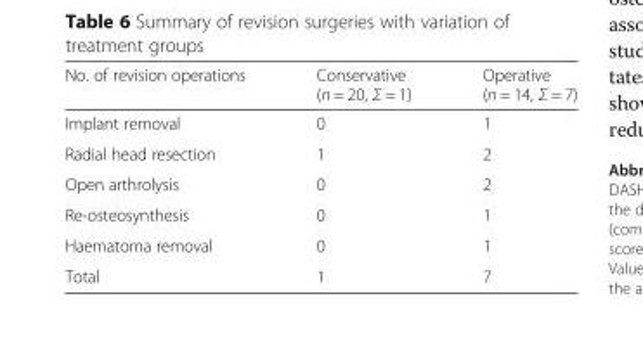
<table><thead><tr><td>No. of revision operations</td><td>Conservative (n = 20, Σ = 1)</td><td>Operative (n = 14, Σ = 7)</td></tr></thead><tbody><tr><td>Implant removal</td><td>0</td><td>1</td></tr><tr><td>Radial head resection</td><td>1</td><td>2</td></tr><tr><td>Open arthrolysis</td><td>0</td><td>2</td></tr><tr><td>Re-osteosynthesis</td><td>0</td><td>1</td></tr><tr><td>Haematoma removal</td><td>0</td><td>1</td></tr><tr><td>Total</td><td>1</td><td>7</td></tr></tbody></table>